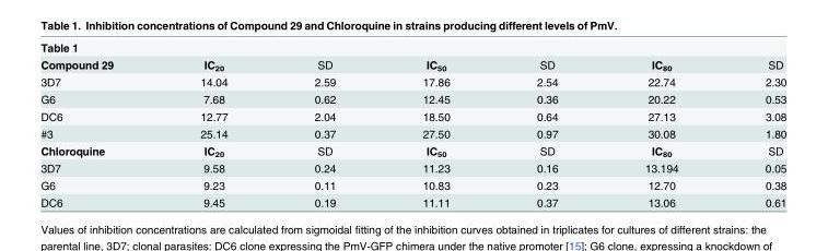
<table><tbody><tr><td colspan="7">Table 1</td></tr><tr><td>Compound 29</td><td>IC<sub>20</sub></td><td>SD</td><td>IC<sub>50</sub></td><td>SD</td><td>IC<sub>80</sub></td><td>SD</td></tr><tr><td>3D7</td><td>14.04</td><td>2.59</td><td>17.86</td><td>2.54</td><td>22.74</td><td>2.30</td></tr><tr><td>G6</td><td>7.68</td><td>0.62</td><td>12.45</td><td>0.36</td><td>20.22</td><td>0.53</td></tr><tr><td>DC6</td><td>12.77</td><td>2.04</td><td>18.50</td><td>0.64</td><td>27.13</td><td>3.08</td></tr><tr><td>#3</td><td>25.14</td><td>0.37</td><td>27.50</td><td>0.97</td><td>30.08</td><td>1.80</td></tr><tr><td>Chloroquine</td><td>IC<sub>20</sub></td><td>SD</td><td>IC<sub>50</sub></td><td>SD</td><td>IC<sub>80</sub></td><td>SD</td></tr><tr><td>3D7</td><td>9.58</td><td>0.24</td><td>11.23</td><td>0.16</td><td>13.194</td><td>0.05</td></tr><tr><td>G6</td><td>9.23</td><td>0.11</td><td>10.83</td><td>0.23</td><td>12.70</td><td>0.38</td></tr><tr><td>DC6</td><td>9.45</td><td>0.19</td><td>11.11</td><td>0.37</td><td>13.06</td><td>0.61</td></tr></tbody></table>